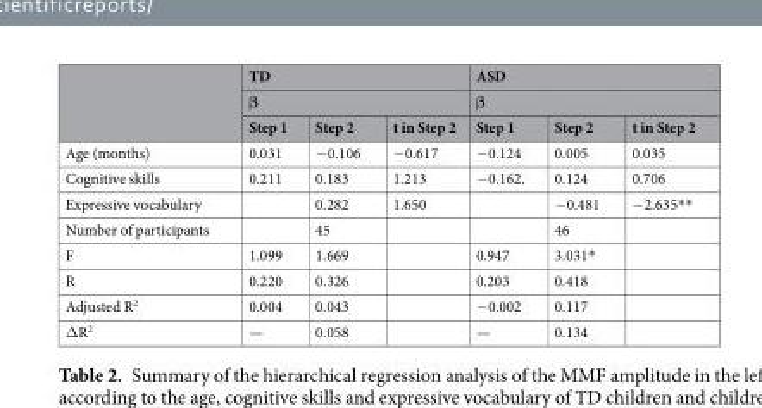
<table><thead><tr><td rowspan="3"></td><td rowspan="2" colspan="3">TD β</td><td rowspan="2" colspan="3">ASD β</td></tr><tr></tr><tr><td>Step 1</td><td>Step 2</td><td>t in Step 2</td><td>Step 1</td><td>Step 2</td><td>t in Step 2</td></tr></thead><tbody><tr><td>Age (months)</td><td>0.031</td><td>−0.106</td><td>−0.617</td><td>−0.124</td><td>0.005</td><td>0.035</td></tr><tr><td>Cognitive skills</td><td>0.211</td><td>0.183</td><td>1.213</td><td>−0.162.</td><td>0.124</td><td>0.706</td></tr><tr><td>Expressive vocabulary</td><td></td><td>0.282</td><td>1.650</td><td></td><td>−0.481</td><td>−2.635**</td></tr><tr><td>Number of participants</td><td></td><td>45</td><td></td><td></td><td>46</td><td></td></tr><tr><td>F</td><td>1.099</td><td>1.669</td><td></td><td>0.947</td><td>3.031*</td><td></td></tr><tr><td>R</td><td>0.220</td><td>0.326</td><td></td><td>0.203</td><td>0.418</td><td></td></tr><tr><td>Adjusted R<sup>2</sup></td><td>0.004</td><td>0.043</td><td></td><td>−0.002</td><td>0.117</td><td></td></tr><tr><td>ΔR<sup>2</sup></td><td>—</td><td>0.058</td><td></td><td>—</td><td>0.134</td><td></td></tr></tbody></table>